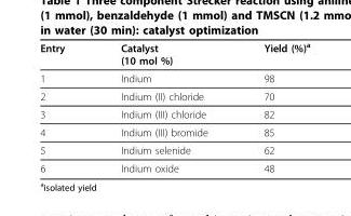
<table><thead><tr><td>Entry</td><td>Catalyst (10 mol %)</td><td>Yield (%)<sup>a</sup></td></tr></thead><tbody><tr><td>1</td><td>Indium</td><td>98</td></tr><tr><td>2</td><td>Indium (II) chloride</td><td>70</td></tr><tr><td>3</td><td>Indium (III) chloride</td><td>82</td></tr><tr><td>4</td><td>Indium (III) bromide</td><td>85</td></tr><tr><td>5</td><td>Indium selenide</td><td>62</td></tr><tr><td>6</td><td>Indium oxide</td><td>48</td></tr></tbody></table>